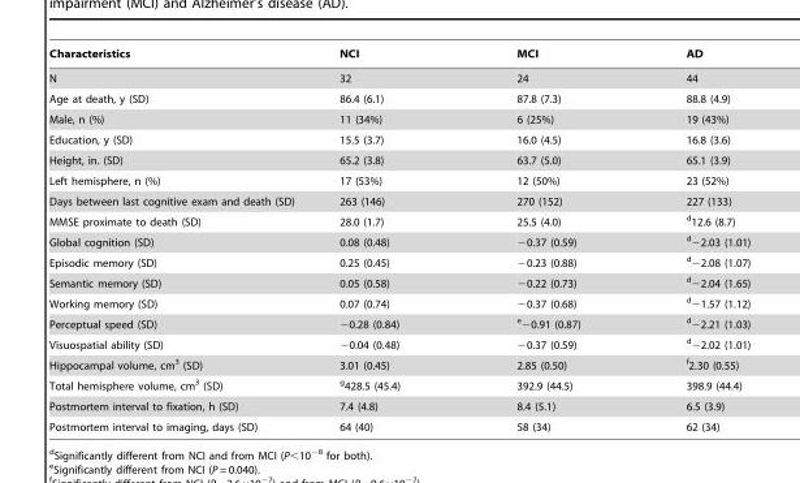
<table><thead><tr><td>Characteristics</td><td>NCI</td><td>MCI</td><td>AD</td></tr></thead><tbody><tr><td>N</td><td>32</td><td>24</td><td>44</td></tr><tr><td>Age at death, y (SD)</td><td>86.4 (6.1)</td><td>87.8 (7.3)</td><td>88.8 (4.9)</td></tr><tr><td>Male, n (%)</td><td>11 (34%)</td><td>6 (25%)</td><td>19 (43%)</td></tr><tr><td>Education, y (SD)</td><td>15.5 (3.7)</td><td>16.0 (4.5)</td><td>16.8 (3.6)</td></tr><tr><td>Height, in. (SD)</td><td>65.2 (3.8)</td><td>63.7 (5.0)</td><td>65.1 (3.9)</td></tr><tr><td>Left hemisphere, n (%)</td><td>17 (53%)</td><td>12 (50%)</td><td>23 (52%)</td></tr><tr><td>Days between last cognitive exam and death (SD)</td><td>263 (146)</td><td>270 (152)</td><td>227 (133)</td></tr><tr><td>MMSE proximate to death (SD)</td><td>28.0 (1.7)</td><td>25.5 (4.0)</td><td>d12.6 (8.7)</td></tr><tr><td>Global cognition (SD)</td><td>0.08 (0.48)</td><td>−0.37 (0.59)</td><td>d−2.03 (1.01)</td></tr><tr><td>Episodic memory (SD)</td><td>0.25 (0.45)</td><td>−0.23 (0.88)</td><td>d−2.08 (1.07)</td></tr><tr><td>Semantic memory (SD)</td><td>0.05 (0.58)</td><td>−0.22 (0.73)</td><td>d−2.04 (1.65)</td></tr><tr><td>Working memory (SD)</td><td>0.07 (0.74)</td><td>−0.37 (0.68)</td><td>d−1.57 (1.12)</td></tr><tr><td>Perceptual speed (SD)</td><td>−0.28 (0.84)</td><td>e−0.91 (0.87)</td><td>d−2.21 (1.03)</td></tr><tr><td>Visuospatial ability (SD)</td><td>−0.04 (0.48)</td><td>−0.37 (0.59)</td><td>d−2.02 (1.01)</td></tr><tr><td>Hippocampal volume, cm<sup>3</sup> (SD)</td><td>3.01 (0.45)</td><td>2.85 (0.50)</td><td>f2.30 (0.55)</td></tr><tr><td>Total hemisphere volume, cm<sup>3</sup> (SD)</td><td>g428.5 (45.4)</td><td>392.9 (44.5)</td><td>398.9 (44.4)</td></tr><tr><td>Postmortem interval to fixation, h (SD)</td><td>7.4 (4.8)</td><td>8.4 (5.1)</td><td>6.5 (3.9)</td></tr><tr><td>Postmortem interval to imaging, days (SD)</td><td>64 (40)</td><td>58 (34)</td><td>62 (34)</td></tr></tbody></table>